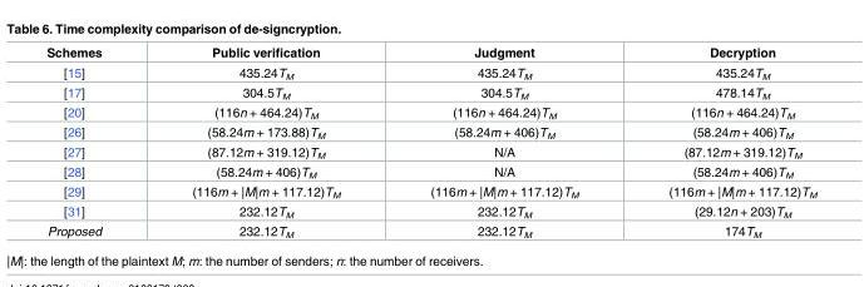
<table><thead><tr><td>Schemes</td><td>Public verification</td><td>Judgment</td><td>Decryption</td></tr></thead><tbody><tr><td>[15]</td><td>435.24T<sub>M</sub></td><td>435.24T<sub>M</sub></td><td>435.24T<sub>M</sub></td></tr><tr><td>[17]</td><td>304.5T<sub>M</sub></td><td>304.5T<sub>M</sub></td><td>478.14T<sub>M</sub></td></tr><tr><td>[20]</td><td>(116n + 464.24)T<sub>M</sub></td><td>(116n + 464.24)T<sub>M</sub></td><td>(116n + 464.24)T<sub>M</sub></td></tr><tr><td>[26]</td><td>(58.24m + 173.88)T<sub>M</sub></td><td>(58.24m + 406)T<sub>M</sub></td><td>(58.24m + 406)T<sub>M</sub></td></tr><tr><td>[27]</td><td>(87.12m + 319.12)T<sub>M</sub></td><td>N/A</td><td>(87.12m + 319.12)T<sub>M</sub></td></tr><tr><td>[28]</td><td>(58.24m + 406)T<sub>M</sub></td><td>N/A</td><td>(58.24m + 406)T<sub>M</sub></td></tr><tr><td>[29]</td><td>(116m + |M|m + 117.12)T<sub>M</sub></td><td>(116m + |M|m + 117.12)T<sub>M</sub></td><td>(116m + |M|m + 117.12)T<sub>M</sub></td></tr><tr><td>[31]</td><td>232.12T<sub>M</sub></td><td>232.12T<sub>M</sub></td><td>(29.12n + 203)T<sub>M</sub></td></tr><tr><td>Proposed</td><td>232.12T<sub>M</sub></td><td>232.12T<sub>M</sub></td><td>174T<sub>M</sub></td></tr></tbody></table>